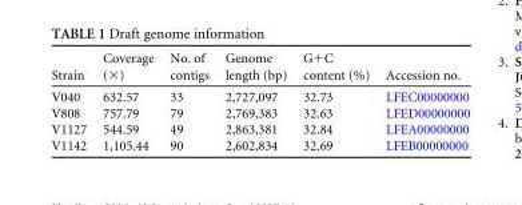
<table><thead><tr><td>Strain</td><td>Coverage (×)</td><td>No. of contigs</td><td>Genome length (bp)</td><td>G+C content (%)</td><td>Accession no.</td></tr></thead><tbody><tr><td>V040</td><td>632.57</td><td>33</td><td>2,727,097</td><td>32.73</td><td>LFEC00000000</td></tr><tr><td>V808</td><td>757.79</td><td>79</td><td>2,769,383</td><td>32.63</td><td>LFED00000000</td></tr><tr><td>V1127</td><td>544.59</td><td>49</td><td>2,863,381</td><td>32.84</td><td>LFEA00000000</td></tr><tr><td>V1142</td><td>1,105.44</td><td>90</td><td>2,602,834</td><td>32.69</td><td>LFEB00000000</td></tr></tbody></table>